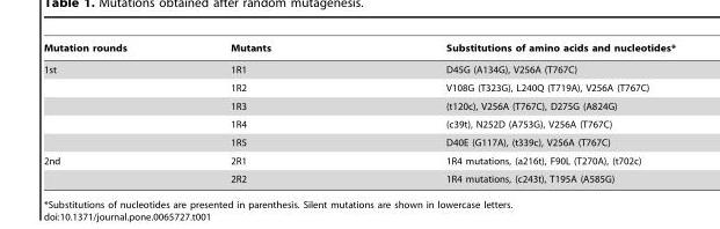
<table><thead><tr><td>Mutation rounds</td><td>Mutants</td><td>Substitutions of amino acids and nucleotides*</td></tr></thead><tbody><tr><td rowspan="5">1st</td><td>1R1</td><td>D45G (A134G), V256A (T767C)</td></tr><tr><td>1R2</td><td>V108G (T323G), L240Q (T719A), V256A (T767C)</td></tr><tr><td>1R3</td><td>(t120c), V256A (T767C), D275G (A824G)</td></tr><tr><td>1R4</td><td>(c39t), N252D (A753G), V256A (T767C)</td></tr><tr><td>1R5</td><td>D40E (G117A), (t339c), V256A (T767C)</td></tr><tr><td rowspan="2">2nd</td><td>2R1</td><td>1R4 mutations, (a216t), F90L (T270A), (t702c)</td></tr><tr><td>2R2</td><td>1R4 mutations, (c243t), T195A (A585G)</td></tr></tbody></table>